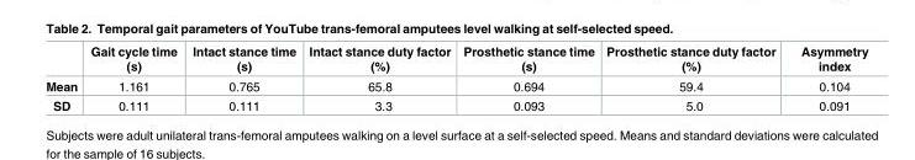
<table><thead><tr><td></td><td>Gait cycle time (s)</td><td>Intact stance time (s)</td><td>Intact stance duty factor (%)</td><td>Prosthetic stance time (s)</td><td>Prosthetic stance duty factor (%)</td><td>Asymmetry index</td></tr></thead><tbody><tr><td>Mean</td><td>1.161</td><td>0.765</td><td>65.8</td><td>0.694</td><td>59.4</td><td>0.104</td></tr><tr><td>SD</td><td>0.111</td><td>0.111</td><td>3.3</td><td>0.093</td><td>5.0</td><td>0.091</td></tr></tbody></table>